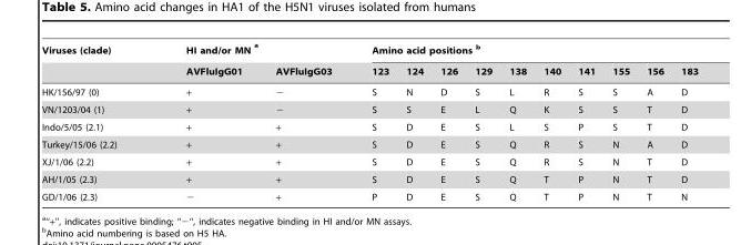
<table><thead><tr><td rowspan="2">Viruses (clade)</td><td colspan="2">HI and/or MN a</td><td colspan="10">Amino acid positions b</td></tr><tr><td>AVFluIgG01</td><td>AVFluIgG03</td><td>123</td><td>124</td><td>126</td><td>129</td><td>138</td><td>140</td><td>141</td><td>155</td><td>156</td><td>183</td></tr></thead><tbody><tr><td>HK/156/97 (0)</td><td>+</td><td>−</td><td>S</td><td>N</td><td>D</td><td>S</td><td>L</td><td>R</td><td>S</td><td>S</td><td>A</td><td>D</td></tr><tr><td>VN/1203/04 (1)</td><td>+</td><td>−</td><td>S</td><td>S</td><td>E</td><td>L</td><td>Q</td><td>K</td><td>S</td><td>S</td><td>T</td><td>D</td></tr><tr><td>Indo/5/05 (2.1)</td><td>+</td><td>+</td><td>S</td><td>D</td><td>E</td><td>S</td><td>L</td><td>S</td><td>P</td><td>S</td><td>T</td><td>D</td></tr><tr><td>Turkey/15/06 (2.2)</td><td>+</td><td>+</td><td>S</td><td>D</td><td>E</td><td>S</td><td>Q</td><td>R</td><td>S</td><td>N</td><td>A</td><td>D</td></tr><tr><td>XJ/1/06 (2.2)</td><td>+</td><td>+</td><td>S</td><td>D</td><td>E</td><td>S</td><td>Q</td><td>R</td><td>S</td><td>N</td><td>T</td><td>D</td></tr><tr><td>AH/1/05 (2.3)</td><td>+</td><td>+</td><td>S</td><td>D</td><td>E</td><td>S</td><td>Q</td><td>T</td><td>P</td><td>N</td><td>T</td><td>D</td></tr><tr><td>GD/1/06 (2.3)</td><td>−</td><td>+</td><td>P</td><td>D</td><td>E</td><td>S</td><td>Q</td><td>T</td><td>P</td><td>N</td><td>T</td><td>N</td></tr></tbody></table>